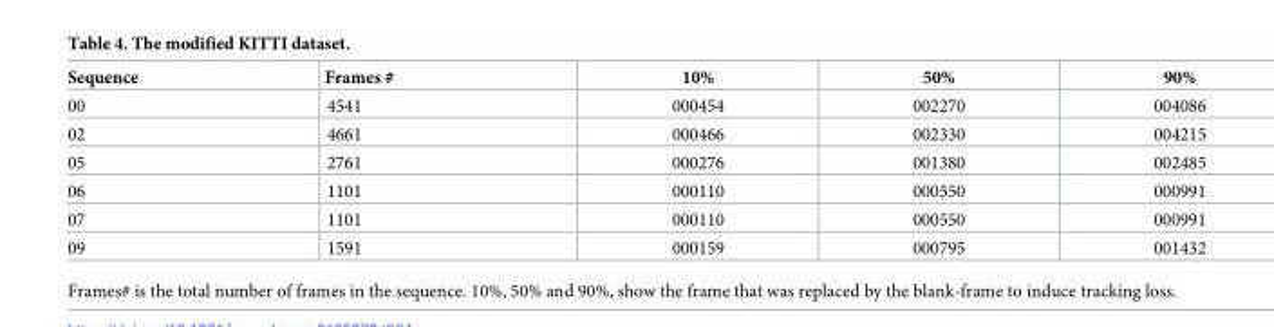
<table><thead><tr><td>Sequence</td><td>Frames #</td><td>10%</td><td>50%</td><td>90%</td></tr></thead><tbody><tr><td>00</td><td>4541</td><td>000454</td><td>002270</td><td>004086</td></tr><tr><td>02</td><td>4661</td><td>000466</td><td>002330</td><td>004215</td></tr><tr><td>05</td><td>2761</td><td>000276</td><td>001380</td><td>002485</td></tr><tr><td>06</td><td>1101</td><td>000110</td><td>000550</td><td>000991</td></tr><tr><td>07</td><td>1101</td><td>000110</td><td>000550</td><td>000991</td></tr><tr><td>09</td><td>1591</td><td>000159</td><td>000795</td><td>001432</td></tr></tbody></table>